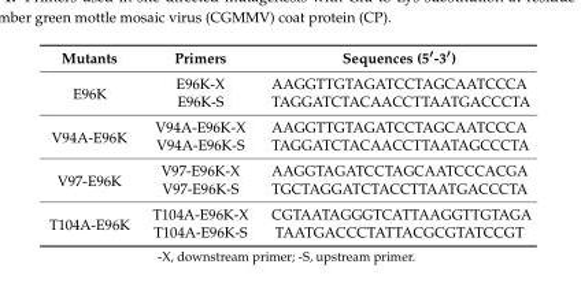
<table><thead><tr><td>Mutants</td><td>Primers</td><td>Sequences (5′-3′)</td></tr></thead><tbody><tr><td rowspan="2">E96K</td><td>E96K-X</td><td>AAGGTTGTAGATCCTAGCAATCCCA</td></tr><tr><td>E96K-S</td><td>TAGGATCTACAACCTTAATGACCCTA</td></tr><tr><td rowspan="2">V94A-E96K</td><td>V94A-E96K-X</td><td>AAGGTTGTAGATCCTAGCAATCCCA</td></tr><tr><td>V94A-E96K-S</td><td>TAGGATCTACAACCTTAATAGCCCTA</td></tr><tr><td rowspan="2">V97-E96K</td><td>V97-E96K-X</td><td>AAGGTAGATCCTAGCAATCCCACGA</td></tr><tr><td>V97-E96K-S</td><td>TGCTAGGATCTACCTTAATGACCCTA</td></tr><tr><td rowspan="2">T104A-E96K</td><td>T104A-E96K-X</td><td>CGTAATAGGGTCATTAAGGTTGTAGA</td></tr><tr><td>T104A-E96K-S</td><td>TAATGACCCTATTACGCGTATCCGT</td></tr></tbody></table>